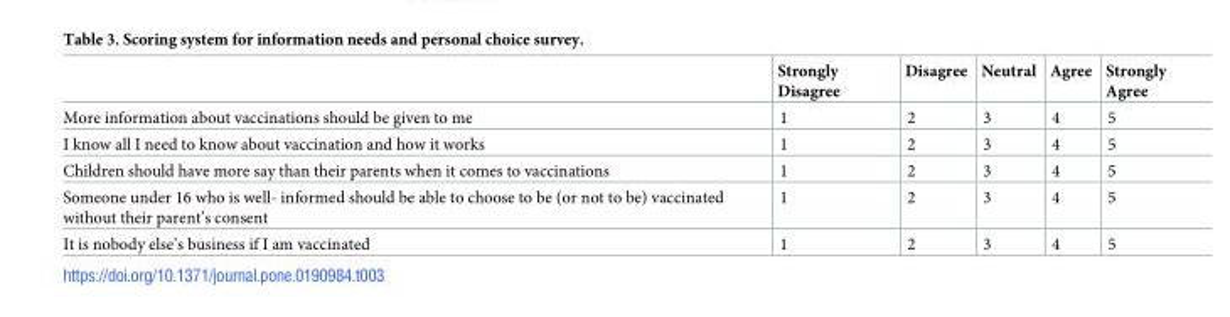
<table><thead><tr><td></td><td>Strongly Disagree</td><td>Disagree</td><td>Neutral</td><td>Agree</td><td>Strongly Agree</td></tr></thead><tbody><tr><td>More information about vaccinations should be given to me</td><td>1</td><td>2</td><td>3</td><td>4</td><td>5</td></tr><tr><td>I know all I need to know about vaccination and how it works</td><td>1</td><td>2</td><td>3</td><td>4</td><td>5</td></tr><tr><td>Children should have more say than their parents when it comes to vaccinations</td><td>1</td><td>2</td><td>3</td><td>4</td><td>5</td></tr><tr><td>Someone under 16 who is well- informed should be able to choose to be (or not to be) vaccinated without their parent’s consent</td><td>1</td><td>2</td><td>3</td><td>4</td><td>5</td></tr><tr><td>It is nobody else’s business if I am vaccinated</td><td>1</td><td>2</td><td>3</td><td>4</td><td>5</td></tr></tbody></table>